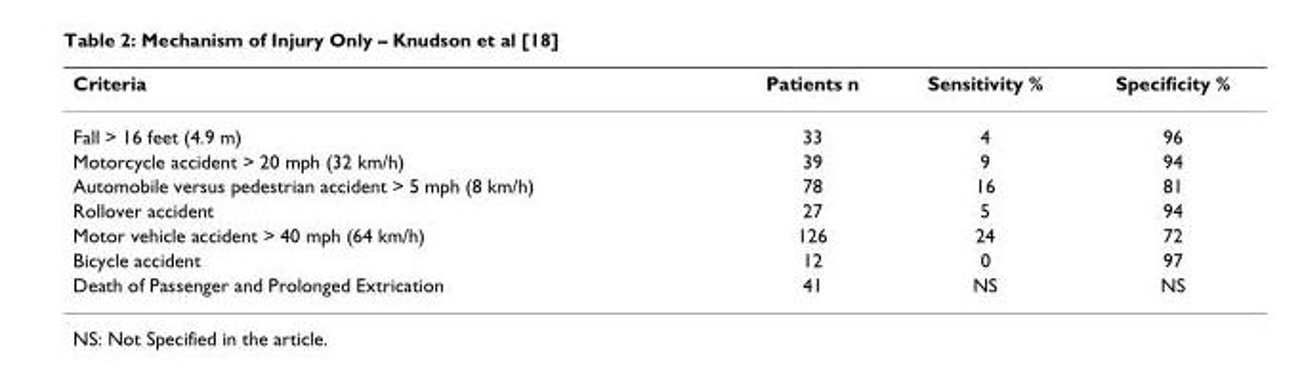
<table><thead><tr><td>Criteria</td><td>Patients n</td><td>Sensitivity %</td><td>Specificity %</td></tr></thead><tbody><tr><td>Fall &gt; 16 feet (4.9 m)</td><td>33</td><td>4</td><td>96</td></tr><tr><td>Motorcycle accident &gt; 20 mph (32 km/h)</td><td>39</td><td>9</td><td>94</td></tr><tr><td>Automobile versus pedestrian accident &gt; 5 mph (8 km/h)</td><td>78</td><td>16</td><td>81</td></tr><tr><td>Rollover accident</td><td>27</td><td>5</td><td>94</td></tr><tr><td>Motor vehicle accident &gt; 40 mph (64 km/h)</td><td>126</td><td>24</td><td>72</td></tr><tr><td>Bicycle accident</td><td>12</td><td>0</td><td>97</td></tr><tr><td>Death of Passenger and Prolonged Extrication</td><td>41</td><td>NS</td><td>NS</td></tr></tbody></table>